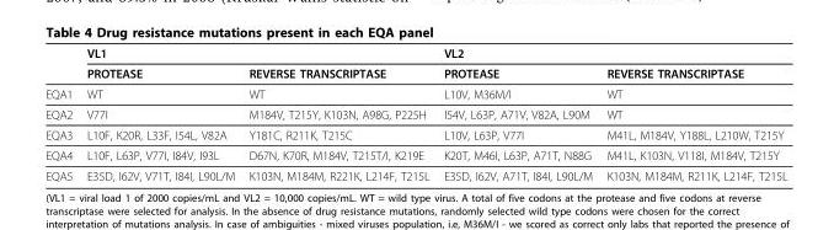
<table><thead><tr><td rowspan="2"></td><td colspan="2">VL1</td><td colspan="2">VL2</td></tr><tr><td>PROTEASE</td><td>REVERSE TRANSCRIPTASE</td><td>PROTEASE</td><td>REVERSE TRANSCRIPTASE</td></tr></thead><tbody><tr><td>EQA1</td><td>WT</td><td>WT</td><td>L10V, M36M/I</td><td>WT</td></tr><tr><td>EQA2</td><td>V77I</td><td>M184V, T215Y, K103N, A98G, P225H</td><td>I54V, L63P, A71V, V82A, L90M</td><td>WT</td></tr><tr><td>EQA3</td><td>L10F, K20R, L33F, I54L, V82A</td><td>Y181C, R211K, T215C</td><td>L10V, L63P, V77I</td><td>M41L, M184V, Y188L, L210W, T215Y</td></tr><tr><td>EQA4</td><td>L10F, L63P, V77I, I84V, I93L</td><td>D67N, K70R, M184V, T215T/I, K219E</td><td>K20T, M46I, L63P, A71T, N88G</td><td>M41L, K103N, V118I, M184V, T215Y</td></tr><tr><td>EQA5</td><td>E35D, I62V, V71T, I84I, L90L/M</td><td>K103N, M184M, R221K, L214F, T215L</td><td>E35D, I62V, A71T, I84I, L90L/M</td><td>K103N, M184M, R211K, L214F, T215L</td></tr></tbody></table>